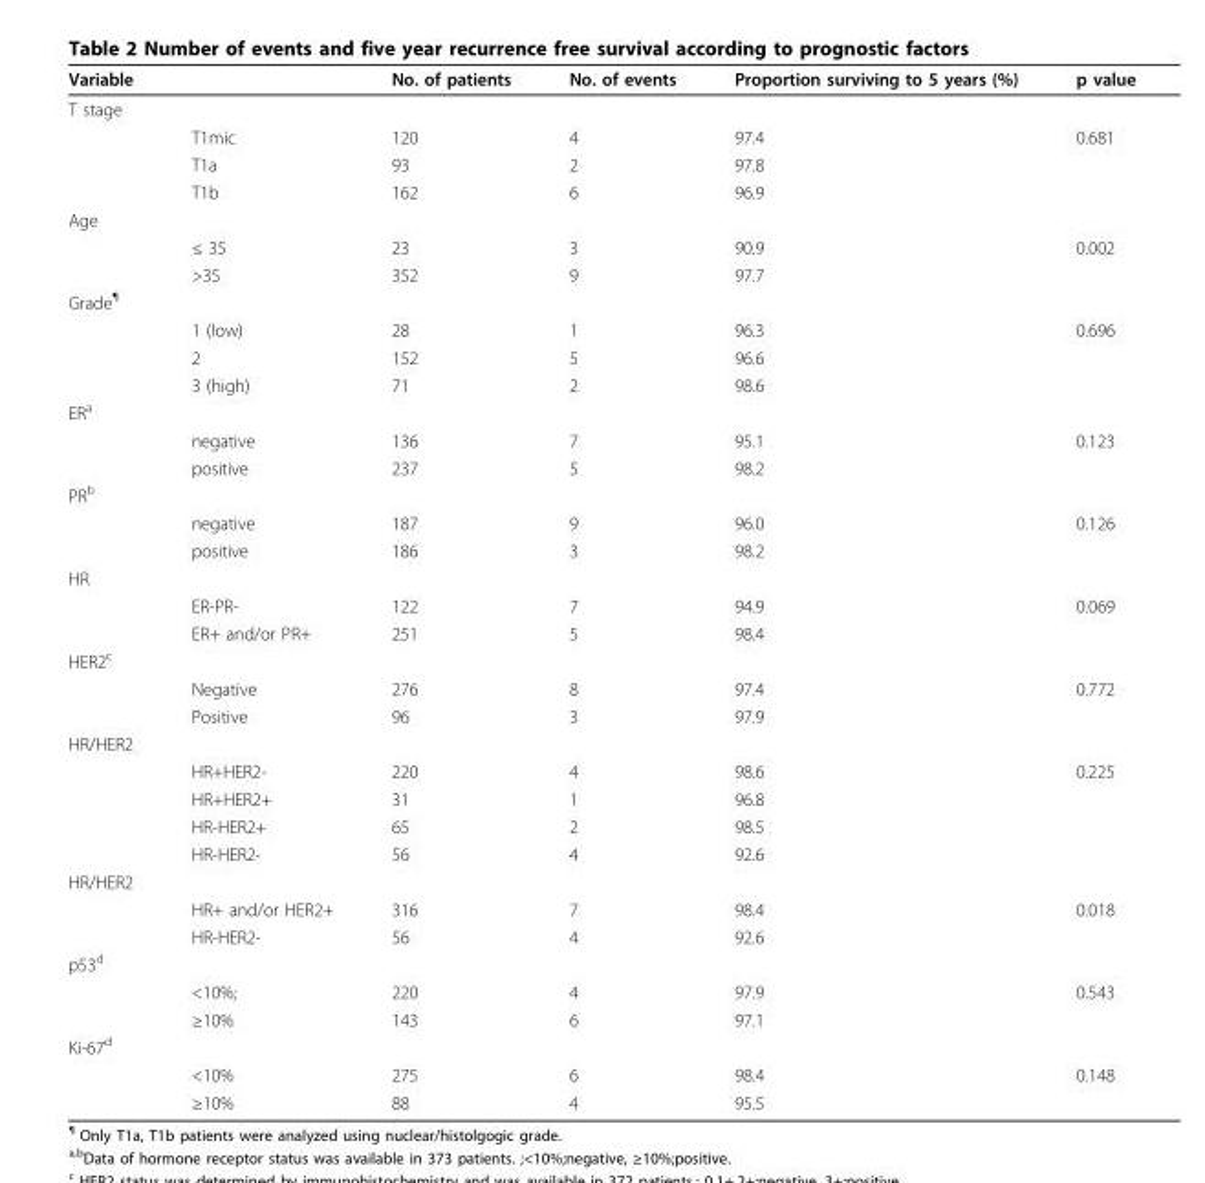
<table><thead><tr><td>Variable</td><td></td><td>No. of patients</td><td>No. of events</td><td>Proportion surviving to 5 years (%)</td><td>p value</td></tr></thead><tbody><tr><td colspan="6">T stage</td></tr><tr><td></td><td>T1mic</td><td>120</td><td>4</td><td>97.4</td><td>0.681</td></tr><tr><td></td><td>T1a</td><td>93</td><td>2</td><td>97.8</td><td></td></tr><tr><td></td><td>T1b</td><td>162</td><td>6</td><td>96.9</td><td></td></tr><tr><td colspan="6">Age</td></tr><tr><td></td><td>≤ 35</td><td>23</td><td>3</td><td>90.9</td><td>0.002</td></tr><tr><td></td><td>&gt;35</td><td>352</td><td>9</td><td>97.7</td><td></td></tr><tr><td colspan="6">Grade<sup>¶</sup></td></tr><tr><td></td><td>1 (low)</td><td>28</td><td>1</td><td>96.3</td><td>0.696</td></tr><tr><td></td><td>2</td><td>152</td><td>5</td><td>96.6</td><td></td></tr><tr><td></td><td>3 (high)</td><td>71</td><td>2</td><td>98.6</td><td></td></tr><tr><td colspan="6">ER<sup>a</sup></td></tr><tr><td></td><td>negative</td><td>136</td><td>7</td><td>95.1</td><td>0.123</td></tr><tr><td></td><td>positive</td><td>237</td><td>5</td><td>98.2</td><td></td></tr><tr><td colspan="6">PR<sup>b</sup></td></tr><tr><td></td><td>negative</td><td>187</td><td>9</td><td>96.0</td><td>0.126</td></tr><tr><td></td><td>positive</td><td>186</td><td>3</td><td>98.2</td><td></td></tr><tr><td colspan="6">HR</td></tr><tr><td></td><td>ER-PR-</td><td>122</td><td>7</td><td>94.9</td><td>0.069</td></tr><tr><td></td><td>ER+ and/or PR+</td><td>251</td><td>5</td><td>98.4</td><td></td></tr><tr><td colspan="6">HER2<sup>c</sup></td></tr><tr><td></td><td>Negative</td><td>276</td><td>8</td><td>97.4</td><td>0.772</td></tr><tr><td></td><td>Positive</td><td>96</td><td>3</td><td>97.9</td><td></td></tr><tr><td colspan="6">HR/HER2</td></tr><tr><td></td><td>HR+HER2-</td><td>220</td><td>4</td><td>98.6</td><td>0.225</td></tr><tr><td></td><td>HR+HER2+</td><td>31</td><td>1</td><td>96.8</td><td></td></tr><tr><td></td><td>HR-HER2+</td><td>65</td><td>2</td><td>98.5</td><td></td></tr><tr><td></td><td>HR-HER2-</td><td>56</td><td>4</td><td>92.6</td><td></td></tr><tr><td colspan="6">HR/HER2</td></tr><tr><td></td><td>HR+ and/or HER2+</td><td>316</td><td>7</td><td>98.4</td><td>0.018</td></tr><tr><td></td><td>HR-HER2-</td><td>56</td><td>4</td><td>92.6</td><td></td></tr><tr><td colspan="6">p53<sup>d</sup></td></tr><tr><td></td><td>&lt;10%;</td><td>220</td><td>4</td><td>97.9</td><td>0.543</td></tr><tr><td></td><td>≥10%</td><td>143</td><td>6</td><td>97.1</td><td></td></tr><tr><td colspan="6">Ki-67<sup>d</sup></td></tr><tr><td></td><td>&lt;10%</td><td>275</td><td>6</td><td>98.4</td><td>0.148</td></tr><tr><td></td><td>≥10%</td><td>88</td><td>4</td><td>95.5</td><td></td></tr></tbody></table>